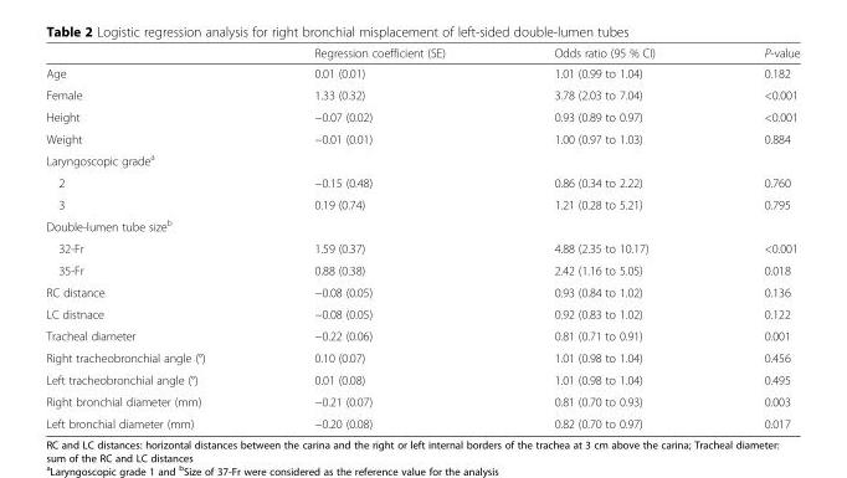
<table><thead><tr><td></td><td>Regression coefficient (SE)</td><td>Odds ratio (95 % CI)</td><td>P-value</td></tr></thead><tbody><tr><td>Age</td><td>0.01 (0.01)</td><td>1.01 (0.99 to 1.04)</td><td>0.182</td></tr><tr><td>Female</td><td>1.33 (0.32)</td><td>3.78 (2.03 to 7.04)</td><td>&lt;0.001</td></tr><tr><td>Height</td><td>−0.07 (0.02)</td><td>0.93 (0.89 to 0.97)</td><td>&lt;0.001</td></tr><tr><td>Weight</td><td>−0.01 (0.01)</td><td>1.00 (0.97 to 1.03)</td><td>0.884</td></tr><tr><td colspan="4">Laryngoscopic grade<sup>a</sup></td></tr><tr><td>2</td><td>−0.15 (0.48)</td><td>0.86 (0.34 to 2.22)</td><td>0.760</td></tr><tr><td>3</td><td>0.19 (0.74)</td><td>1.21 (0.28 to 5.21)</td><td>0.795</td></tr><tr><td colspan="4">Double-lumen tube size<sup>b</sup></td></tr><tr><td>32-Fr</td><td>1.59 (0.37)</td><td>4.88 (2.35 to 10.17)</td><td>&lt;0.001</td></tr><tr><td>35-Fr</td><td>0.88 (0.38)</td><td>2.42 (1.16 to 5.05)</td><td>0.018</td></tr><tr><td>RC distance</td><td>−0.08 (0.05)</td><td>0.93 (0.84 to 1.02)</td><td>0.136</td></tr><tr><td>LC distnace</td><td>−0.08 (0.05)</td><td>0.92 (0.83 to 1.02)</td><td>0.122</td></tr><tr><td>Tracheal diameter</td><td>−0.22 (0.06)</td><td>0.81 (0.71 to 0.91)</td><td>0.001</td></tr><tr><td>Right tracheobronchial angle (°)</td><td>0.10 (0.07)</td><td>1.01 (0.98 to 1.04)</td><td>0.456</td></tr><tr><td>Left tracheobronchial angle (°)</td><td>0.01 (0.08)</td><td>1.01 (0.98 to 1.04)</td><td>0.495</td></tr><tr><td>Right bronchial diameter (mm)</td><td>−0.21 (0.07)</td><td>0.81 (0.70 to 0.93)</td><td>0.003</td></tr><tr><td>Left bronchial diameter (mm)</td><td>−0.20 (0.08)</td><td>0.82 (0.70 to 0.97)</td><td>0.017</td></tr></tbody></table>